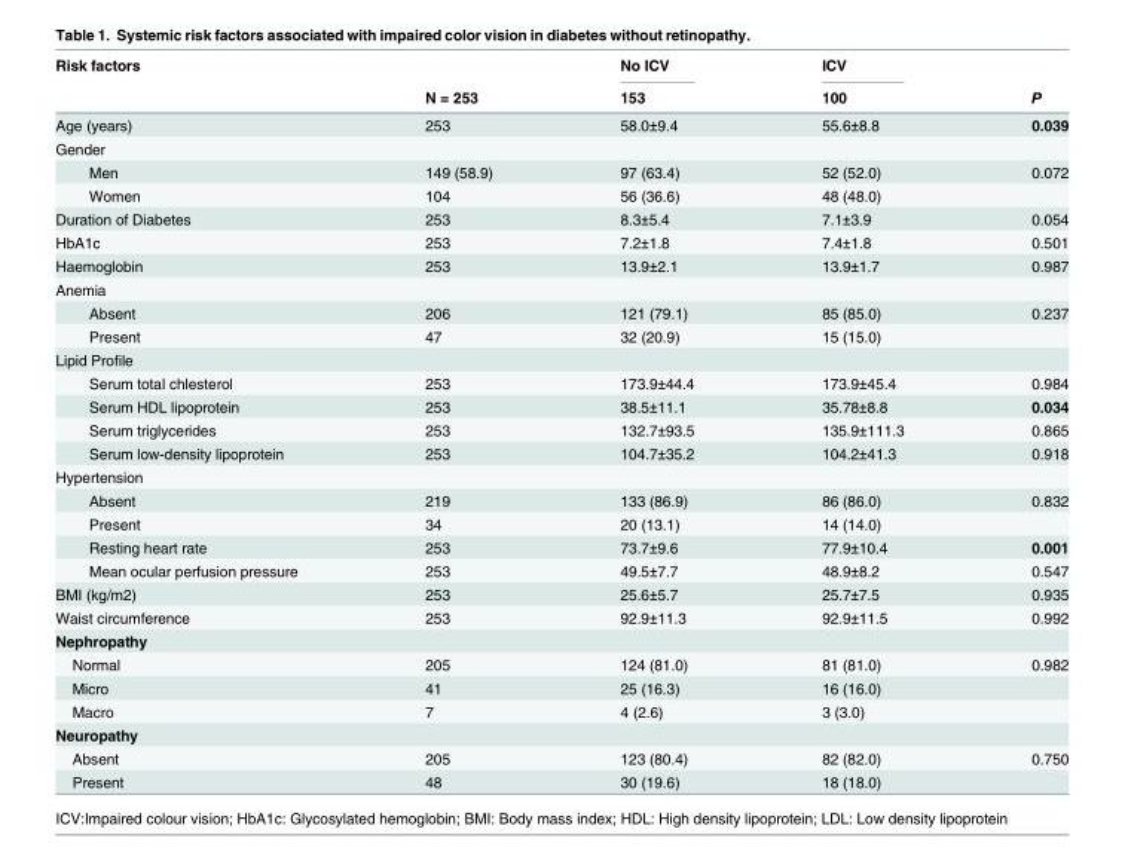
<table><thead><tr><td rowspan="2">Risk factors</td><td rowspan="2">N = 253</td><td rowspan="2">No ICV 153</td><td rowspan="2">ICV 100</td><td rowspan="2">P</td></tr><tr></tr></thead><tbody><tr><td>Age (years)</td><td>253</td><td>58.0±9.4</td><td>55.6±8.8</td><td>0.039</td></tr><tr><td colspan="5">Gender</td></tr><tr><td>Men</td><td>149 (58.9)</td><td>97 (63.4)</td><td>52 (52.0)</td><td>0.072</td></tr><tr><td>Women</td><td>104</td><td>56 (36.6)</td><td>48 (48.0)</td><td></td></tr><tr><td>Duration of Diabetes</td><td>253</td><td>8.3±5.4</td><td>7.1±3.9</td><td>0.054</td></tr><tr><td>HbA1c</td><td>253</td><td>7.2±1.8</td><td>7.4±1.8</td><td>0.501</td></tr><tr><td>Haemoglobin</td><td>253</td><td>13.9±2.1</td><td>13.9±1.7</td><td>0.987</td></tr><tr><td colspan="5">Anemia</td></tr><tr><td>Absent</td><td>206</td><td>121 (79.1)</td><td>85 (85.0)</td><td>0.237</td></tr><tr><td>Present</td><td>47</td><td>32 (20.9)</td><td>15 (15.0)</td><td></td></tr><tr><td colspan="5">Lipid Profile</td></tr><tr><td>Serum total chlesterol</td><td>253</td><td>173.9±44.4</td><td>173.9±45.4</td><td>0.984</td></tr><tr><td>Serum HDL lipoprotein</td><td>253</td><td>38.5±11.1</td><td>35.78±8.8</td><td>0.034</td></tr><tr><td>Serum triglycerides</td><td>253</td><td>132.7±93.5</td><td>135.9±111.3</td><td>0.865</td></tr><tr><td>Serum low-density lipoprotein</td><td>253</td><td>104.7±35.2</td><td>104.2±41.3</td><td>0.918</td></tr><tr><td colspan="5">Hypertension</td></tr><tr><td>Absent</td><td>219</td><td>133 (86.9)</td><td>86 (86.0)</td><td>0.832</td></tr><tr><td>Present</td><td>34</td><td>20 (13.1)</td><td>14 (14.0)</td><td></td></tr><tr><td>Resting heart rate</td><td>253</td><td>73.7±9.6</td><td>77.9±10.4</td><td>0.001</td></tr><tr><td>Mean ocular perfusion pressure</td><td>253</td><td>49.5±7.7</td><td>48.9±8.2</td><td>0.547</td></tr><tr><td>BMI (kg/m2)</td><td>253</td><td>25.6±5.7</td><td>25.7±7.5</td><td>0.935</td></tr><tr><td>Waist circumference</td><td>253</td><td>92.9±11.3</td><td>92.9±11.5</td><td>0.992</td></tr><tr><td colspan="5">Nephropathy</td></tr><tr><td>Normal</td><td>205</td><td>124 (81.0)</td><td>81 (81.0)</td><td>0.982</td></tr><tr><td>Micro</td><td>41</td><td>25 (16.3)</td><td>16 (16.0)</td><td></td></tr><tr><td>Macro</td><td>7</td><td>4 (2.6)</td><td>3 (3.0)</td><td></td></tr><tr><td colspan="5">Neuropathy</td></tr><tr><td>Absent</td><td>205</td><td>123 (80.4)</td><td>82 (82.0)</td><td>0.750</td></tr><tr><td>Present</td><td>48</td><td>30 (19.6)</td><td>18 (18.0)</td><td></td></tr></tbody></table>